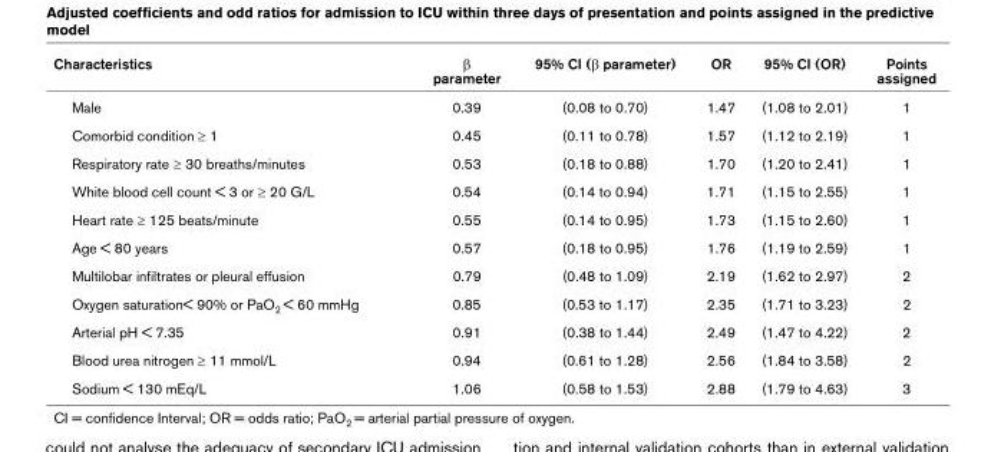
<table><thead><tr><td>Characteristics</td><td>β parameter</td><td>95% CI (β parameter)</td><td>OR</td><td>95% CI (OR)</td><td>Points assigned</td></tr></thead><tbody><tr><td>Male</td><td>0.39</td><td>(0.08 to 0.70)</td><td>1.47</td><td>(1.08 to 2.01)</td><td>1</td></tr><tr><td>Comorbid condition ≥ 1</td><td>0.45</td><td>(0.11 to 0.78)</td><td>1.57</td><td>(1.12 to 2.19)</td><td>1</td></tr><tr><td>Respiratory rate ≥ 30 breaths/minutes</td><td>0.53</td><td>(0.18 to 0.88)</td><td>1.70</td><td>(1.20 to 2.41)</td><td>1</td></tr><tr><td>White blood cell count &lt; 3 or ≥ 20 G/L</td><td>0.54</td><td>(0.14 to 0.94)</td><td>1.71</td><td>(1.15 to 2.55)</td><td>1</td></tr><tr><td>Heart rate ≥ 125 beats/minute</td><td>0.55</td><td>(0.14 to 0.95)</td><td>1.73</td><td>(1.15 to 2.60)</td><td>1</td></tr><tr><td>Age &lt; 80 years</td><td>0.57</td><td>(0.18 to 0.95)</td><td>1.76</td><td>(1.19 to 2.59)</td><td>1</td></tr><tr><td>Multilobar infiltrates or pleural effusion</td><td>0.79</td><td>(0.48 to 1.09)</td><td>2.19</td><td>(1.62 to 2.97)</td><td>2</td></tr><tr><td>Oxygen saturation&lt; 90% or PaO<sub>2</sub> &lt; 60 mmHg</td><td>0.85</td><td>(0.53 to 1.17)</td><td>2.35</td><td>(1.71 to 3.23)</td><td>2</td></tr><tr><td>Arterial pH &lt; 7.35</td><td>0.91</td><td>(0.38 to 1.44)</td><td>2.49</td><td>(1.47 to 4.22)</td><td>2</td></tr><tr><td>Blood urea nitrogen ≥ 11 mmol/L</td><td>0.94</td><td>(0.61 to 1.28)</td><td>2.56</td><td>(1.84 to 3.58)</td><td>2</td></tr><tr><td>Sodium &lt; 130 mEq/L</td><td>1.06</td><td>(0.58 to 1.53)</td><td>2.88</td><td>(1.79 to 4.63)</td><td>3</td></tr></tbody></table>